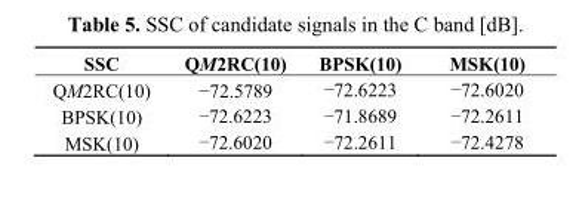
<table><thead><tr><td>SSC</td><td>QM2RC(10)</td><td>BPSK(10)</td><td>MSK(10)</td></tr></thead><tbody><tr><td>QM2RC(10)</td><td>−72.5789</td><td>−72.6223</td><td>−72.6020</td></tr><tr><td>BPSK(10)</td><td>−72.6223</td><td>−71.8689</td><td>−72.2611</td></tr><tr><td>MSK(10)</td><td>−72.6020</td><td>−72.2611</td><td>−72.4278</td></tr></tbody></table>